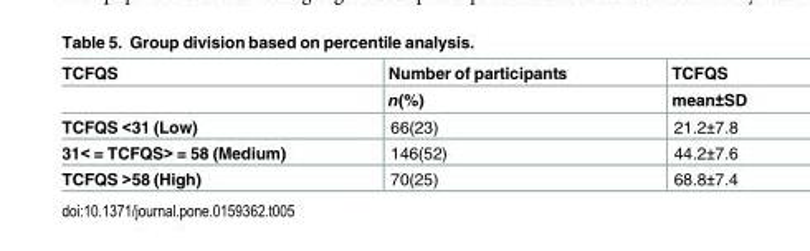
<table><thead><tr><td rowspan="2">TCFQS</td><td rowspan="2">Number of participants n(%)</td><td rowspan="2">TCFQS mean±SD</td></tr><tr></tr></thead><tbody><tr><td>TCFQS &lt;31 (Low)</td><td>66(23)</td><td>21.2±7.8</td></tr><tr><td>31&lt; = TCFQS&gt; = 58 (Medium)</td><td>146(52)</td><td>44.2±7.6</td></tr><tr><td>TCFQS &gt;58 (High)</td><td>70(25)</td><td>68.8±7.4</td></tr></tbody></table>